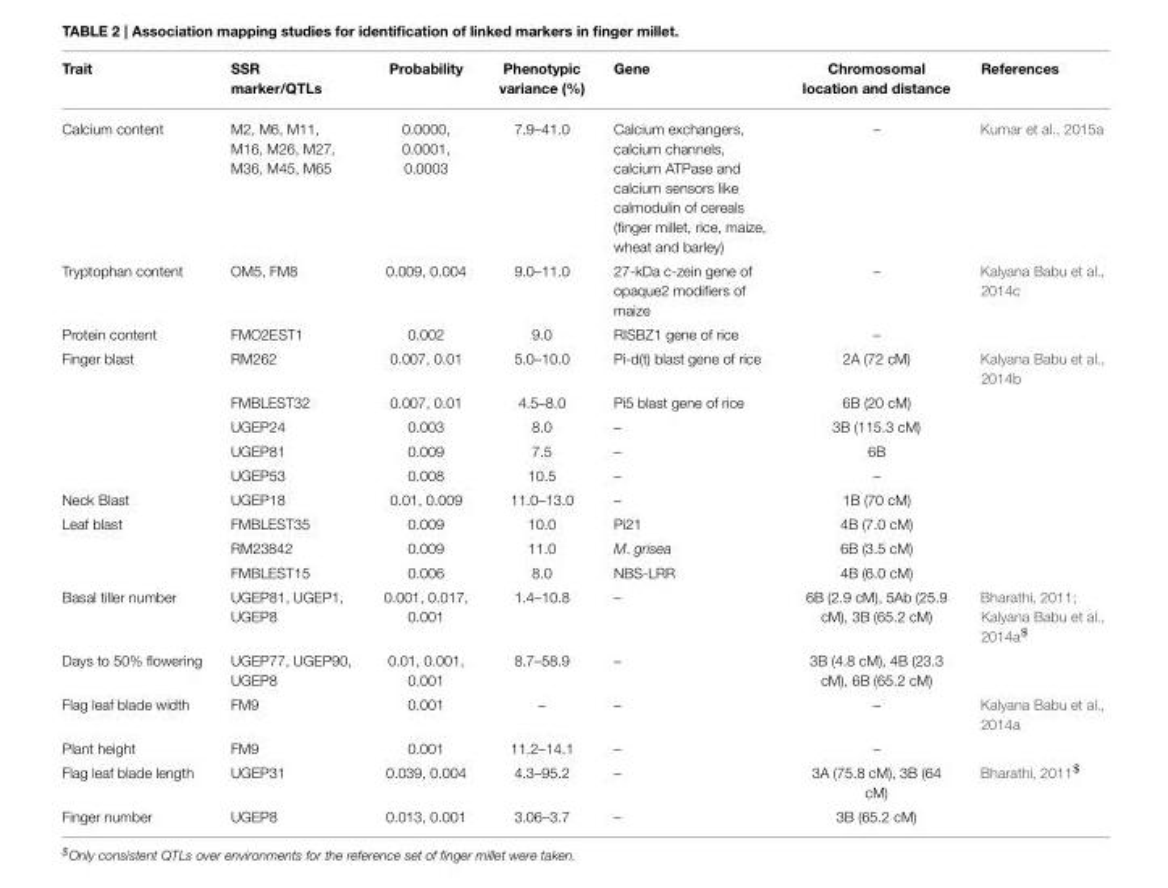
<table><thead><tr><td>Trait</td><td>SSR marker/QTLs</td><td>Probability</td><td>Phenotypic variance (%)</td><td>Gene</td><td>Chromosomal location and distance</td><td>References</td></tr></thead><tbody><tr><td>Calcium content</td><td>M2, M6, M11, M16, M26, M27, M36, M45, M65</td><td>0.0000, 0.0001, 0.0003</td><td>7.9–41.0</td><td>Calcium exchangers, calcium channels, calcium ATPase and calcium sensors like calmodulin of cereals (finger millet, rice, maize, wheat and barley)</td><td>–</td><td>Kumar et al., 2015a</td></tr><tr><td>Tryptophan content</td><td>OM5, FM8</td><td>0.009, 0.004</td><td>9.0–11.0</td><td>27-kDa c-zein gene of opaque2 modifiers of maize</td><td>–</td><td>Kalyana Babu et al., 2014c</td></tr><tr><td>Protein content</td><td>FMO2EST1</td><td>0.002</td><td>9.0</td><td>RISBZ1 gene of rice</td><td>–</td><td></td></tr><tr><td rowspan="5">Finger blast</td><td>RM262</td><td>0.007, 0.01</td><td>5.0–10.0</td><td>Pi-d(t) blast gene of rice</td><td>2A (72 cM)</td><td>Kalyana Babu et al., 2014b</td></tr><tr><td>FMBLEST32</td><td>0.007, 0.01</td><td>4.5–8.0</td><td>Pi5 blast gene of rice</td><td>6B (20 cM)</td><td></td></tr><tr><td>UGEP24</td><td>0.003</td><td>8.0</td><td>–</td><td>3B (115.3 cM)</td><td></td></tr><tr><td>UGEP81</td><td>0.009</td><td>7.5</td><td>–</td><td>6B</td><td></td></tr><tr><td>UGEP53</td><td>0.008</td><td>10.5</td><td>–</td><td>–</td><td></td></tr><tr><td>Neck Blast</td><td>UGEP18</td><td>0.01, 0.009</td><td>11.0–13.0</td><td>–</td><td>1B (70 cM)</td><td></td></tr><tr><td rowspan="3">Leaf blast</td><td>FMBLEST35</td><td>0.009</td><td>10.0</td><td>Pi21</td><td>4B (7.0 cM)</td><td></td></tr><tr><td>RM23842</td><td>0.009</td><td>11.0</td><td>M. grisea</td><td>6B (3.5 cM)</td><td></td></tr><tr><td>FMBLEST15</td><td>0.006</td><td>8.0</td><td>NBS-LRR</td><td>4B (6.0 cM)</td><td></td></tr><tr><td>Basal tiller number</td><td>UGEP81, UGEP1, UGEP8</td><td>0.001, 0.017, 0.001</td><td>1.4–10.8</td><td>–</td><td>6B (2.9 cM), 5Ab (25.9 cM), 3B (65.2 cM)</td><td>Bharathi, 2011; Kalyana Babu et al., 2014a$</td></tr><tr><td>Days to 50% flowering</td><td>UGEP77, UGEP90, UGEP8</td><td>0.01, 0.001, 0.001</td><td>8.7–58.9</td><td>–</td><td>3B (4.8 cM), 4B (23.3 cM), 6B (65.2 cM)</td><td></td></tr><tr><td>Flag leaf blade width</td><td>FM9</td><td>0.001</td><td>–</td><td>–</td><td>–</td><td>Kalyana Babu et al., 2014a</td></tr><tr><td>Plant height</td><td>FM9</td><td>0.001</td><td>11.2–14.1</td><td>–</td><td>–</td><td></td></tr><tr><td>Flag leaf blade length</td><td>UGEP31</td><td>0.039, 0.004</td><td>4.3–95.2</td><td>–</td><td>3A (75.8 cM), 3B (64 cM)</td><td>Bharathi, 2011$</td></tr><tr><td>Finger number</td><td>UGEP8</td><td>0.013, 0.001</td><td>3.06–3.7</td><td>–</td><td>3B (65.2 cM)</td><td></td></tr></tbody></table>